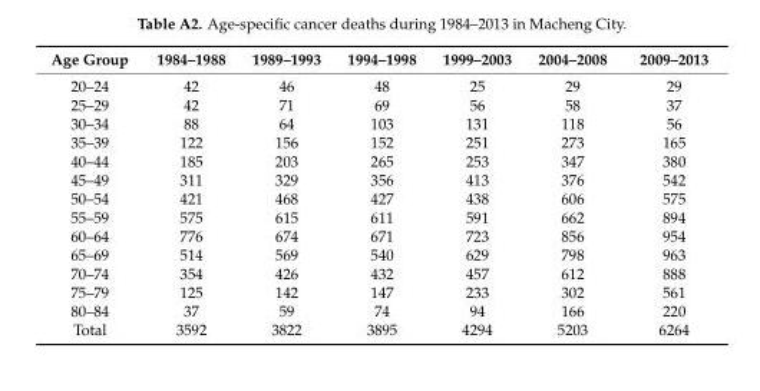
<table><thead><tr><td>Age Group</td><td>1984–1988</td><td>1989–1993</td><td>1994–1998</td><td>1999–2003</td><td>2004–2008</td><td>2009–2013</td></tr></thead><tbody><tr><td>20–24</td><td>42</td><td>46</td><td>48</td><td>25</td><td>29</td><td>29</td></tr><tr><td>25–29</td><td>42</td><td>71</td><td>69</td><td>56</td><td>58</td><td>37</td></tr><tr><td>30–34</td><td>88</td><td>64</td><td>103</td><td>131</td><td>118</td><td>56</td></tr><tr><td>35–39</td><td>122</td><td>156</td><td>152</td><td>251</td><td>273</td><td>165</td></tr><tr><td>40–44</td><td>185</td><td>203</td><td>265</td><td>253</td><td>347</td><td>380</td></tr><tr><td>45–49</td><td>311</td><td>329</td><td>356</td><td>413</td><td>376</td><td>542</td></tr><tr><td>50–54</td><td>421</td><td>468</td><td>427</td><td>438</td><td>606</td><td>575</td></tr><tr><td>55–59</td><td>575</td><td>615</td><td>611</td><td>591</td><td>662</td><td>894</td></tr><tr><td>60–64</td><td>776</td><td>674</td><td>671</td><td>723</td><td>856</td><td>954</td></tr><tr><td>65–69</td><td>514</td><td>569</td><td>540</td><td>629</td><td>798</td><td>963</td></tr><tr><td>70–74</td><td>354</td><td>426</td><td>432</td><td>457</td><td>612</td><td>888</td></tr><tr><td>75–79</td><td>125</td><td>142</td><td>147</td><td>233</td><td>302</td><td>561</td></tr><tr><td>80–84</td><td>37</td><td>59</td><td>74</td><td>94</td><td>166</td><td>220</td></tr><tr><td>Total</td><td>3592</td><td>3822</td><td>3895</td><td>4294</td><td>5203</td><td>6264</td></tr></tbody></table>